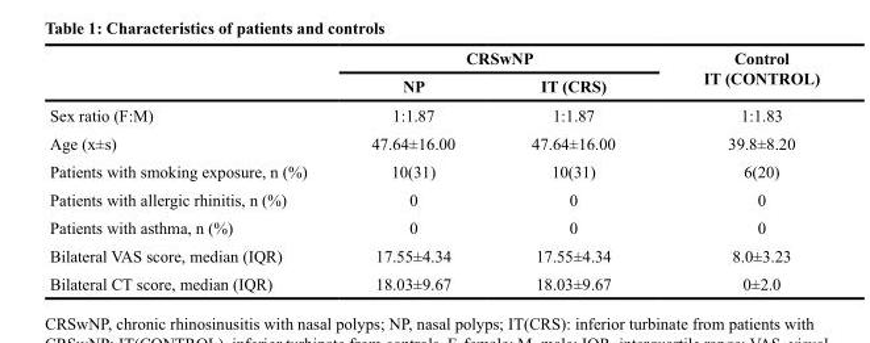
<table><thead><tr><td rowspan="2"></td><td colspan="2">CRSwNP</td><td rowspan="2">Control IT (CONTROL)</td></tr><tr><td>NP</td><td>IT (CRS)</td></tr></thead><tbody><tr><td>Sex ratio (F:M)</td><td>1:1.87</td><td>1:1.87</td><td>1:1.83</td></tr><tr><td>Age (x±s)</td><td>47.64±16.00</td><td>47.64±16.00</td><td>39.8±8.20</td></tr><tr><td>Patients with smoking exposure, n (%)</td><td>10(31)</td><td>10(31)</td><td>6(20)</td></tr><tr><td>Patients with allergic rhinitis, n (%)</td><td>0</td><td>0</td><td>0</td></tr><tr><td>Patients with asthma, n (%)</td><td>0</td><td>0</td><td>0</td></tr><tr><td>Bilateral VAS score, median (IQR)</td><td>17.55±4.34</td><td>17.55±4.34</td><td>8.0±3.23</td></tr><tr><td>Bilateral CT score, median (IQR)</td><td>18.03±9.67</td><td>18.03±9.67</td><td>0±2.0</td></tr></tbody></table>